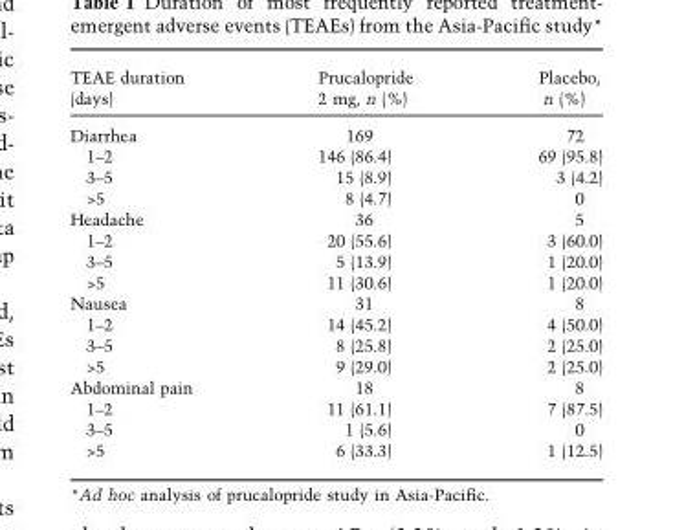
<table><thead><tr><td>TEAE duration (days)</td><td>Prucalopride 2 mg, n (%)</td><td>Placebo, n (%)</td></tr></thead><tbody><tr><td>Diarrhea</td><td>169</td><td>72</td></tr><tr><td>1–2</td><td>146 (86.4)</td><td>69 (95.8)</td></tr><tr><td>3–5</td><td>15 (8.9)</td><td>3 (4.2)</td></tr><tr><td>&gt;5</td><td>8 (4.7)</td><td>0</td></tr><tr><td>Headache</td><td>36</td><td>5</td></tr><tr><td>1–2</td><td>20 (55.6)</td><td>3 (60.0)</td></tr><tr><td>3–5</td><td>5 (13.9)</td><td>1 (20.0)</td></tr><tr><td>&gt;5</td><td>11 (30.6)</td><td>1 (20.0)</td></tr><tr><td>Nausea</td><td>31</td><td>8</td></tr><tr><td>1–2</td><td>14 (45.2)</td><td>4 (50.0)</td></tr><tr><td>3–5</td><td>8 (25.8)</td><td>2 (25.0)</td></tr><tr><td>&gt;5</td><td>9 (29.0)</td><td>2 (25.0)</td></tr><tr><td>Abdominal pain</td><td>18</td><td>8</td></tr><tr><td>1–2</td><td>11 (61.1)</td><td>7 (87.5)</td></tr><tr><td>3–5</td><td>1 (5.6)</td><td>0</td></tr><tr><td>&gt;5</td><td>6 (33.3)</td><td>1 (12.5)</td></tr></tbody></table>